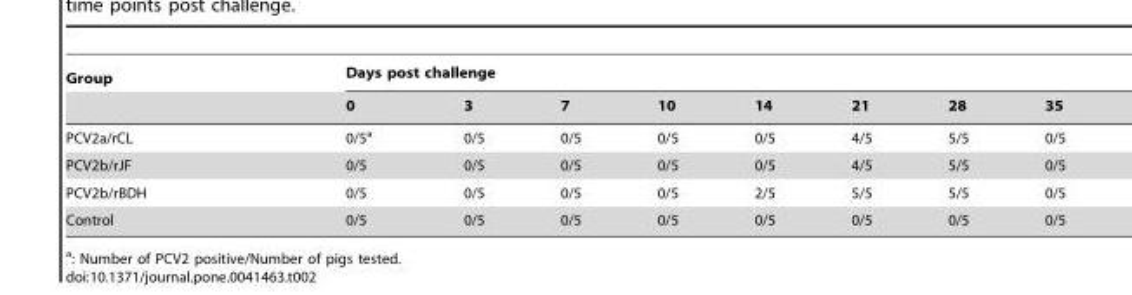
<table><thead><tr><td rowspan="2">Group</td><td colspan="8">Days post challenge</td></tr><tr><td>0</td><td>3</td><td>7</td><td>10</td><td>14</td><td>21</td><td>28</td><td>35</td></tr></thead><tbody><tr><td>PCV2a/rCL</td><td>0/5<sup>a</sup></td><td>0/5</td><td>0/5</td><td>0/5</td><td>0/5</td><td>4/5</td><td>5/5</td><td>0/5</td></tr><tr><td>PCV2b/rJF</td><td>0/5</td><td>0/5</td><td>0/5</td><td>0/5</td><td>0/5</td><td>4/5</td><td>5/5</td><td>0/5</td></tr><tr><td>PCV2b/rBDH</td><td>0/5</td><td>0/5</td><td>0/5</td><td>0/5</td><td>2/5</td><td>5/5</td><td>5/5</td><td>0/5</td></tr><tr><td>Control</td><td>0/5</td><td>0/5</td><td>0/5</td><td>0/5</td><td>0/5</td><td>0/5</td><td>0/5</td><td>0/5</td></tr></tbody></table>